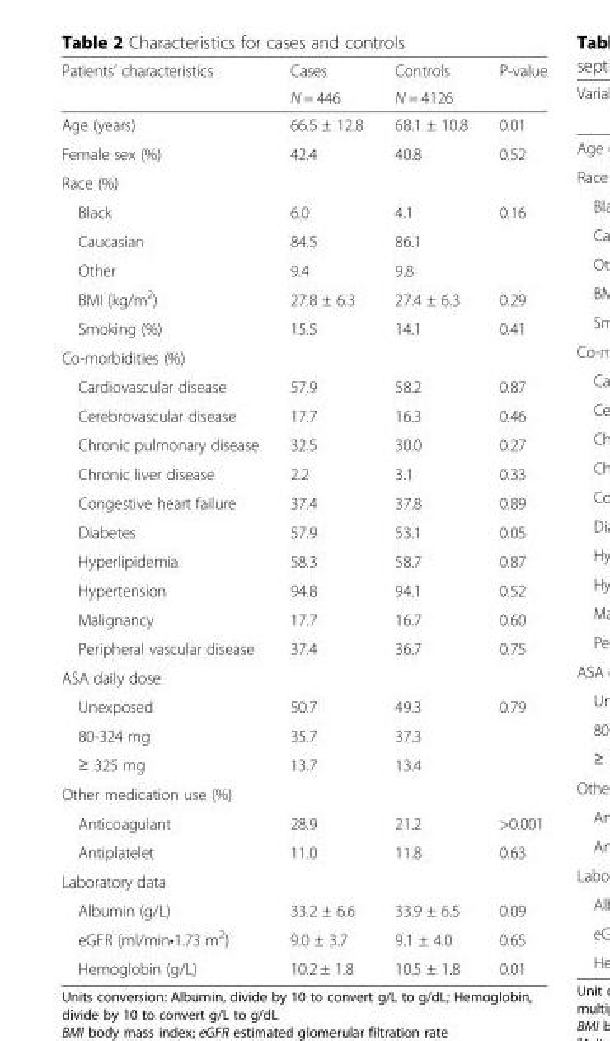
<table><thead><tr><td rowspan="2">Patients’ characteristics</td><td rowspan="2">Cases N = 446</td><td rowspan="2">Controls N = 4126</td><td rowspan="2">P-value</td></tr><tr></tr></thead><tbody><tr><td>Age (years)</td><td>66.5 ± 12.8</td><td>68.1 ± 10.8</td><td>0.01</td></tr><tr><td>Female sex (%)</td><td>42.4</td><td>40.8</td><td>0.52</td></tr><tr><td colspan="4">Race (%)</td></tr><tr><td>Black</td><td>6.0</td><td>4.1</td><td>0.16</td></tr><tr><td>Caucasian</td><td>84.5</td><td>86.1</td><td></td></tr><tr><td>Other</td><td>9.4</td><td>9.8</td><td></td></tr><tr><td>BMI (kg/m<sup>2</sup>)</td><td>27.8 ± 6.3</td><td>27.4 ± 6.3</td><td>0.29</td></tr><tr><td>Smoking (%)</td><td>15.5</td><td>14.1</td><td>0.41</td></tr><tr><td colspan="4">Co-morbidities (%)</td></tr><tr><td>Cardiovascular disease</td><td>57.9</td><td>58.2</td><td>0.87</td></tr><tr><td>Cerebrovascular disease</td><td>17.7</td><td>16.3</td><td>0.46</td></tr><tr><td>Chronic pulmonary disease</td><td>32.5</td><td>30.0</td><td>0.27</td></tr><tr><td>Chronic liver disease</td><td>2.2</td><td>3.1</td><td>0.33</td></tr><tr><td>Congestive heart failure</td><td>37.4</td><td>37.8</td><td>0.89</td></tr><tr><td>Diabetes</td><td>57.9</td><td>53.1</td><td>0.05</td></tr><tr><td>Hyperlipidemia</td><td>58.3</td><td>58.7</td><td>0.87</td></tr><tr><td>Hypertension</td><td>94.8</td><td>94.1</td><td>0.52</td></tr><tr><td>Malignancy</td><td>17.7</td><td>16.7</td><td>0.60</td></tr><tr><td>Peripheral vascular disease</td><td>37.4</td><td>36.7</td><td>0.75</td></tr><tr><td colspan="4">ASA daily dose</td></tr><tr><td>Unexposed</td><td>50.7</td><td>49.3</td><td>0.79</td></tr><tr><td>80-324 mg</td><td>35.7</td><td>37.3</td><td></td></tr><tr><td>≥ 325 mg</td><td>13.7</td><td>13.4</td><td></td></tr><tr><td colspan="4">Other medication use (%)</td></tr><tr><td>Anticoagulant</td><td>28.9</td><td>21.2</td><td>&gt;0.001</td></tr><tr><td>Antiplatelet</td><td>11.0</td><td>11.8</td><td>0.63</td></tr><tr><td colspan="4">Laboratory data</td></tr><tr><td>Albumin (g/L)</td><td>33.2 ± 6.6</td><td>33.9 ± 6.5</td><td>0.09</td></tr><tr><td>eGFR (ml/min•1.73 m<sup>2</sup>)</td><td>9.0 ± 3.7</td><td>9.1 ± 4.0</td><td>0.65</td></tr><tr><td>Hemoglobin (g/L)</td><td>10.2 ± 1.8</td><td>10.5 ± 1.8</td><td>0.01</td></tr></tbody></table>